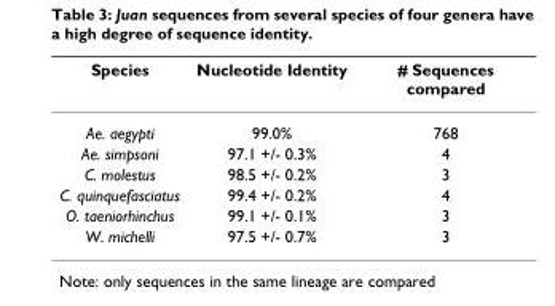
<table><thead><tr><td>Species</td><td>Nucleotide Identity</td><td># Sequences compared</td></tr></thead><tbody><tr><td>Ae. aegypti</td><td>99.0%</td><td>768</td></tr><tr><td>Ae. simpsoni</td><td>97.1 +/- 0.3%</td><td>4</td></tr><tr><td>C. molestus</td><td>98.5 +/- 0.2%</td><td>3</td></tr><tr><td>C. quinquefasciatus</td><td>99.4 +/- 0.2%</td><td>4</td></tr><tr><td>O. taeniorhinchus</td><td>99.1 +/- 0.1%</td><td>3</td></tr><tr><td>W. michelli</td><td>97.5 +/- 0.7%</td><td>3</td></tr></tbody></table>